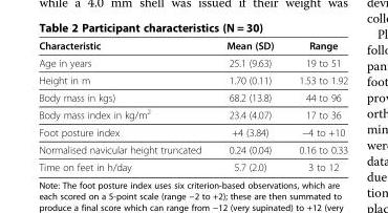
<table><thead><tr><td>Characteristic</td><td>Mean (SD)</td><td>Range</td></tr></thead><tbody><tr><td>Age in years</td><td>25.1 (9.63)</td><td>19 to 51</td></tr><tr><td>Height in m</td><td>1.70 (0.11)</td><td>1.53 to 1.92</td></tr><tr><td>Body mass in kgs)</td><td>68.2 (13.8)</td><td>44 to 96</td></tr><tr><td>Body mass index in kg/m<sup>2</sup></td><td>23.4 (4.07)</td><td>17 to 36</td></tr><tr><td>Foot posture index</td><td>+4 (3.84)</td><td>−4 to +10</td></tr><tr><td>Normalised navicular height truncated</td><td>0.24 (0.04)</td><td>0.16 to 0.33</td></tr><tr><td>Time on feet in h/day</td><td>5.7 (2.0)</td><td>3 to 12</td></tr></tbody></table>